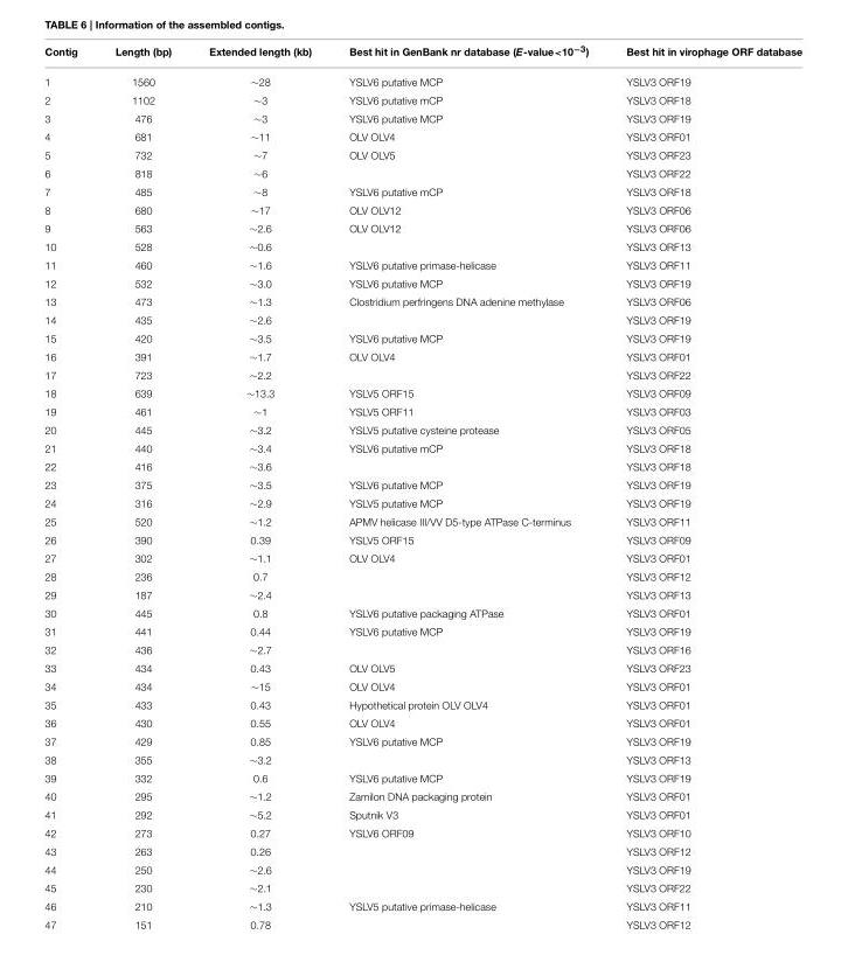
<table><thead><tr><td>Contig</td><td>Length (bp)</td><td>Extended length (kb)</td><td>Best hit in GenBank nr database (E-value&lt;10<sup>−3</sup>)</td><td>Best hit in virophage ORF database</td></tr></thead><tbody><tr><td>1</td><td>1560</td><td>∼28</td><td>YSLV6 putative MCP</td><td>YSLV3 ORF19</td></tr><tr><td>2</td><td>1102</td><td>∼3</td><td>YSLV6 putative mCP</td><td>YSLV3 ORF18</td></tr><tr><td>3</td><td>476</td><td>∼3</td><td>YSLV6 putative MCP</td><td>YSLV3 ORF19</td></tr><tr><td>4</td><td>681</td><td>∼11</td><td>OLV OLV4</td><td>YSLV3 ORF01</td></tr><tr><td>5</td><td>732</td><td>∼7</td><td>OLV OLV5</td><td>YSLV3 ORF23</td></tr><tr><td>6</td><td>818</td><td>∼6</td><td></td><td>YSLV3 ORF22</td></tr><tr><td>7</td><td>485</td><td>∼8</td><td>YSLV6 putative mCP</td><td>YSLV3 ORF18</td></tr><tr><td>8</td><td>680</td><td>∼17</td><td>OLV OLV12</td><td>YSLV3 ORF06</td></tr><tr><td>9</td><td>563</td><td>∼2.6</td><td>OLV OLV12</td><td>YSLV3 ORF06</td></tr><tr><td>10</td><td>528</td><td>∼0.6</td><td></td><td>YSLV3 ORF13</td></tr><tr><td>11</td><td>460</td><td>∼1.6</td><td>YSLV6 putative primase-helicase</td><td>YSLV3 ORF11</td></tr><tr><td>12</td><td>532</td><td>∼3.0</td><td>YSLV6 putative MCP</td><td>YSLV3 ORF19</td></tr><tr><td>13</td><td>473</td><td>∼1.3</td><td>Clostridium perfringens DNA adenine methylase</td><td>YSLV3 ORF06</td></tr><tr><td>14</td><td>435</td><td>∼2.6</td><td></td><td>YSLV3 ORF19</td></tr><tr><td>15</td><td>420</td><td>∼3.5</td><td>YSLV6 putative MCP</td><td>YSLV3 ORF19</td></tr><tr><td>16</td><td>391</td><td>∼1.7</td><td>OLV OLV4</td><td>YSLV3 ORF01</td></tr><tr><td>17</td><td>723</td><td>∼2.2</td><td></td><td>YSLV3 ORF22</td></tr><tr><td>18</td><td>639</td><td>∼13.3</td><td>YSLV5 ORF15</td><td>YSLV3 ORF09</td></tr><tr><td>19</td><td>461</td><td>∼1</td><td>YSLV5 ORF11</td><td>YSLV3 ORF03</td></tr><tr><td>20</td><td>445</td><td>∼3.2</td><td>YSLV5 putative cysteine protease</td><td>YSLV3 ORF05</td></tr><tr><td>21</td><td>440</td><td>∼3.4</td><td>YSLV6 putative mCP</td><td>YSLV3 ORF18</td></tr><tr><td>22</td><td>416</td><td>∼3.6</td><td></td><td>YSLV3 ORF18</td></tr><tr><td>23</td><td>375</td><td>∼3.5</td><td>YSLV6 putative MCP</td><td>YSLV3 ORF19</td></tr><tr><td>24</td><td>316</td><td>∼2.9</td><td>YSLV5 putative MCP</td><td>YSLV3 ORF19</td></tr><tr><td>25</td><td>520</td><td>∼1.2</td><td>APMV helicase III/VV D5-type ATPase C-terminus</td><td>YSLV3 ORF11</td></tr><tr><td>26</td><td>390</td><td>0.39</td><td>YSLV5 ORF15</td><td>YSLV3 ORF09</td></tr><tr><td>27</td><td>302</td><td>∼1.1</td><td>OLV OLV4</td><td>YSLV3 ORF01</td></tr><tr><td>28</td><td>236</td><td>0.7</td><td></td><td>YSLV3 ORF12</td></tr><tr><td>29</td><td>187</td><td>∼2.4</td><td></td><td>YSLV3 ORF13</td></tr><tr><td>30</td><td>445</td><td>0.8</td><td>YSLV6 putative packaging ATPase</td><td>YSLV3 ORF01</td></tr><tr><td>31</td><td>441</td><td>0.44</td><td>YSLV6 putative MCP</td><td>YSLV3 ORF19</td></tr><tr><td>32</td><td>436</td><td>∼2.7</td><td></td><td>YSLV3 ORF16</td></tr><tr><td>33</td><td>434</td><td>0.43</td><td>OLV OLV5</td><td>YSLV3 ORF23</td></tr><tr><td>34</td><td>434</td><td>∼15</td><td>OLV OLV4</td><td>YSLV3 ORF01</td></tr><tr><td>35</td><td>433</td><td>0.43</td><td>Hypothetical protein OLV OLV4</td><td>YSLV3 ORF01</td></tr><tr><td>36</td><td>430</td><td>0.55</td><td>OLV OLV4</td><td>YSLV3 ORF01</td></tr><tr><td>37</td><td>429</td><td>0.85</td><td>YSLV6 putative MCP</td><td>YSLV3 ORF19</td></tr><tr><td>38</td><td>355</td><td>∼3.2</td><td></td><td>YSLV3 ORF13</td></tr><tr><td>39</td><td>332</td><td>0.6</td><td>YSLV6 putative MCP</td><td>YSLV3 ORF19</td></tr><tr><td>40</td><td>295</td><td>∼1.2</td><td>Zamilon DNA packaging protein</td><td>YSLV3 ORF01</td></tr><tr><td>41</td><td>292</td><td>∼5.2</td><td>Sputnik V3</td><td>YSLV3 ORF01</td></tr><tr><td>42</td><td>273</td><td>0.27</td><td>YSLV6 ORF09</td><td>YSLV3 ORF10</td></tr><tr><td>43</td><td>263</td><td>0.26</td><td></td><td>YSLV3 ORF12</td></tr><tr><td>44</td><td>250</td><td>∼2.6</td><td></td><td>YSLV3 ORF19</td></tr><tr><td>45</td><td>230</td><td>∼2.1</td><td></td><td>YSLV3 ORF22</td></tr><tr><td>46</td><td>210</td><td>∼1.3</td><td>YSLV5 putative primase-helicase</td><td>YSLV3 ORF11</td></tr><tr><td>47</td><td>151</td><td>0.78</td><td></td><td>YSLV3 ORF12</td></tr></tbody></table>